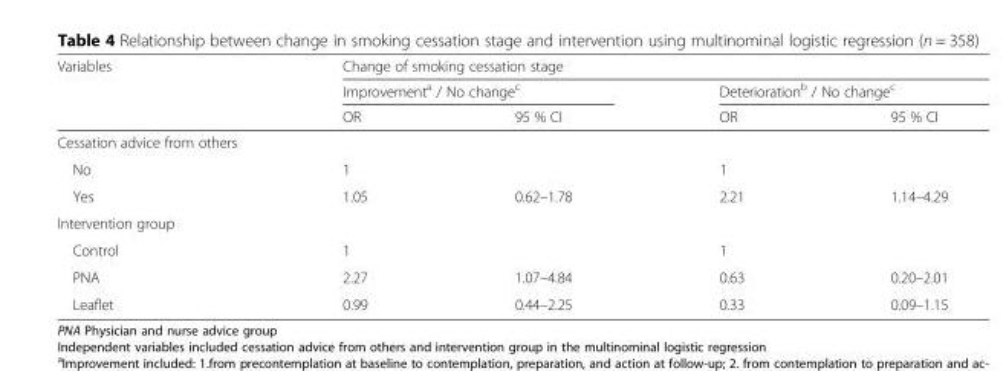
<table><thead><tr><td rowspan="3">Variables</td><td colspan="4">Change of smoking cessation stage</td></tr><tr><td colspan="2">Improvement<sup>a</sup> / No change<sup>c</sup></td><td colspan="2">Deterioration<sup>b</sup> / No change<sup>c</sup></td></tr><tr><td>OR</td><td>95 % CI</td><td>OR</td><td>95 % CI</td></tr></thead><tbody><tr><td colspan="5">Cessation advice from others</td></tr><tr><td>No</td><td>1</td><td></td><td>1</td><td></td></tr><tr><td>Yes</td><td>1.05</td><td>0.62–1.78</td><td>2.21</td><td>1.14–4.29</td></tr><tr><td colspan="5">Intervention group</td></tr><tr><td>Control</td><td>1</td><td></td><td>1</td><td></td></tr><tr><td>PNA</td><td>2.27</td><td>1.07–4.84</td><td>0.63</td><td>0.20–2.01</td></tr><tr><td>Leaflet</td><td>0.99</td><td>0.44–2.25</td><td>0.33</td><td>0.09–1.15</td></tr></tbody></table>